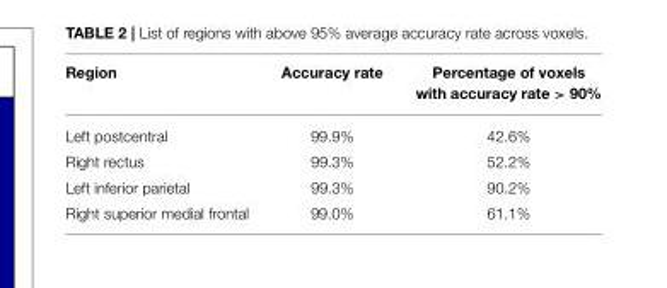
<table><thead><tr><td>Region</td><td>Accuracy rate</td><td>Percentage of voxels with accuracy rate &gt; 90%</td></tr></thead><tbody><tr><td>Left postcentral</td><td>99.9%</td><td>42.6%</td></tr><tr><td>Right rectus</td><td>99.3%</td><td>52.2%</td></tr><tr><td>Left inferior parietal</td><td>99.3%</td><td>90.2%</td></tr><tr><td>Right superior medial frontal</td><td>99.0%</td><td>61.1%</td></tr></tbody></table>